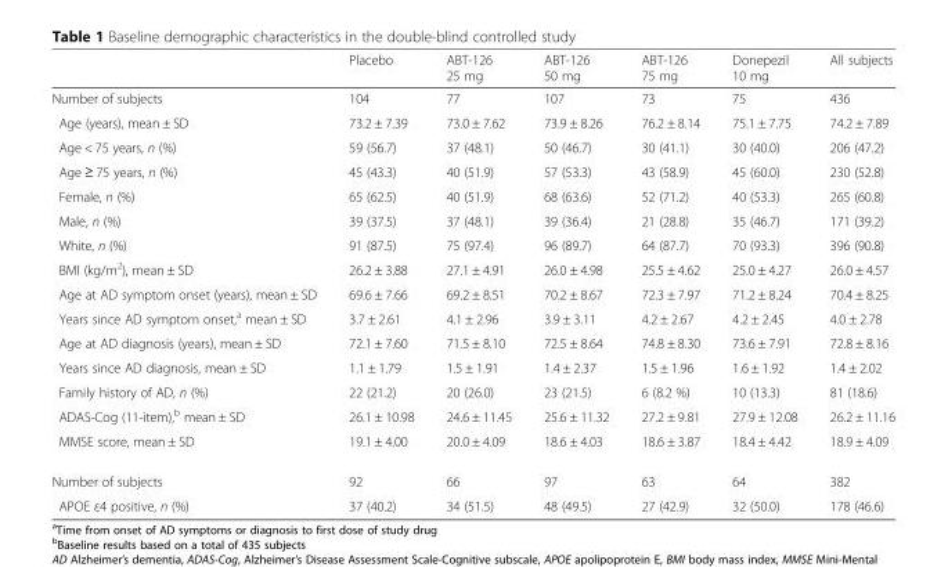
<table><thead><tr><td></td><td>Placebo</td><td>ABT-126 25 mg</td><td>ABT-126 50 mg</td><td>ABT-126 75 mg</td><td>Donepezil 10 mg</td><td>All subjects</td></tr></thead><tbody><tr><td>Number of subjects</td><td>104</td><td>77</td><td>107</td><td>73</td><td>75</td><td>436</td></tr><tr><td>Age (years), mean ± SD</td><td>73.2 ± 7.39</td><td>73.0 ± 7.62</td><td>73.9 ± 8.26</td><td>76.2 ± 8.14</td><td>75.1 ± 7.75</td><td>74.2 ± 7.89</td></tr><tr><td>Age &lt; 75 years, n (%)</td><td>59 (56.7)</td><td>37 (48.1)</td><td>50 (46.7)</td><td>30 (41.1)</td><td>30 (40.0)</td><td>206 (47.2)</td></tr><tr><td>Age ≥ 75 years, n (%)</td><td>45 (43.3)</td><td>40 (51.9)</td><td>57 (53.3)</td><td>43 (58.9)</td><td>45 (60.0)</td><td>230 (52.8)</td></tr><tr><td>Female, n (%)</td><td>65 (62.5)</td><td>40 (51.9)</td><td>68 (63.6)</td><td>52 (71.2)</td><td>40 (53.3)</td><td>265 (60.8)</td></tr><tr><td>Male, n (%)</td><td>39 (37.5)</td><td>37 (48.1)</td><td>39 (36.4)</td><td>21 (28.8)</td><td>35 (46.7)</td><td>171 (39.2)</td></tr><tr><td>White, n (%)</td><td>91 (87.5)</td><td>75 (97.4)</td><td>96 (89.7)</td><td>64 (87.7)</td><td>70 (93.3)</td><td>396 (90.8)</td></tr><tr><td>BMI (kg/m<sup>2</sup>), mean ± SD</td><td>26.2 ± 3.88</td><td>27.1 ± 4.91</td><td>26.0 ± 4.98</td><td>25.5 ± 4.62</td><td>25.0 ± 4.27</td><td>26.0 ± 4.57</td></tr><tr><td>Age at AD symptom onset (years), mean ± SD</td><td>69.6 ± 7.66</td><td>69.2 ± 8.51</td><td>70.2 ± 8.67</td><td>72.3 ± 7.97</td><td>71.2 ± 8.24</td><td>70.4 ± 8.25</td></tr><tr><td>Years since AD symptom onset,<sup>a</sup> mean ± SD</td><td>3.7 ± 2.61</td><td>4.1 ± 2.96</td><td>3.9 ± 3.11</td><td>4.2 ± 2.67</td><td>4.2 ± 2.45</td><td>4.0 ± 2.78</td></tr><tr><td>Age at AD diagnosis (years), mean ± SD</td><td>72.1 ± 7.60</td><td>71.5 ± 8.10</td><td>72.5 ± 8.64</td><td>74.8 ± 8.30</td><td>73.6 ± 7.91</td><td>72.8 ± 8.16</td></tr><tr><td>Years since AD diagnosis, mean ± SD</td><td>1.1 ± 1.79</td><td>1.5 ± 1.91</td><td>1.4 ± 2.37</td><td>1.5 ± 1.96</td><td>1.6 ± 1.92</td><td>1.4 ± 2.02</td></tr><tr><td>Family history of AD, n (%)</td><td>22 (21.2)</td><td>20 (26.0)</td><td>23 (21.5)</td><td>6 (8.2 %)</td><td>10 (13.3)</td><td>81 (18.6)</td></tr><tr><td>ADAS-Cog (11-item),<sup>b</sup> mean ± SD</td><td>26.1 ± 10.98</td><td>24.6 ± 11.45</td><td>25.6 ± 11.32</td><td>27.2 ± 9.81</td><td>27.9 ± 12.08</td><td>26.2 ± 11.16</td></tr><tr><td>MMSE score, mean ± SD</td><td>19.1 ± 4.00</td><td>20.0 ± 4.09</td><td>18.6 ± 4.03</td><td>18.6 ± 3.87</td><td>18.4 ± 4.42</td><td>18.9 ± 4.09</td></tr><tr><td>Number of subjects</td><td>92</td><td>66</td><td>97</td><td>63</td><td>64</td><td>382</td></tr><tr><td>APOE ε4 positive, n (%)</td><td>37 (40.2)</td><td>34 (51.5)</td><td>48 (49.5)</td><td>27 (42.9)</td><td>32 (50.0)</td><td>178 (46.6)</td></tr></tbody></table>